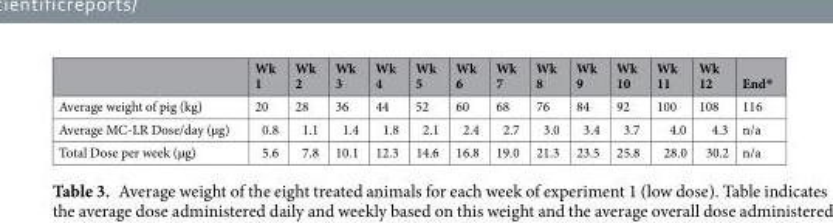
<table><thead><tr><td></td><td>Wk 1</td><td>Wk 2</td><td>Wk 3</td><td>Wk 4</td><td>Wk 5</td><td>Wk 6</td><td>Wk 7</td><td>Wk 8</td><td>Wk 9</td><td>Wk 10</td><td>Wk 11</td><td>Wk 12</td><td>End*</td></tr></thead><tbody><tr><td>Average weight of pig (kg)</td><td>20</td><td>28</td><td>36</td><td>44</td><td>52</td><td>60</td><td>68</td><td>76</td><td>84</td><td>92</td><td>100</td><td>108</td><td>116</td></tr><tr><td>Average MC-LR Dose/day (µg)</td><td>0.8</td><td>1.1</td><td>1.4</td><td>1.8</td><td>2.1</td><td>2.4</td><td>2.7</td><td>3.0</td><td>3.4</td><td>3.7</td><td>4.0</td><td>4.3</td><td>n/a</td></tr><tr><td>Total Dose per week (µg)</td><td>5.6</td><td>7.8</td><td>10.1</td><td>12.3</td><td>14.6</td><td>16.8</td><td>19.0</td><td>21.3</td><td>23.5</td><td>25.8</td><td>28.0</td><td>30.2</td><td>n/a</td></tr></tbody></table>